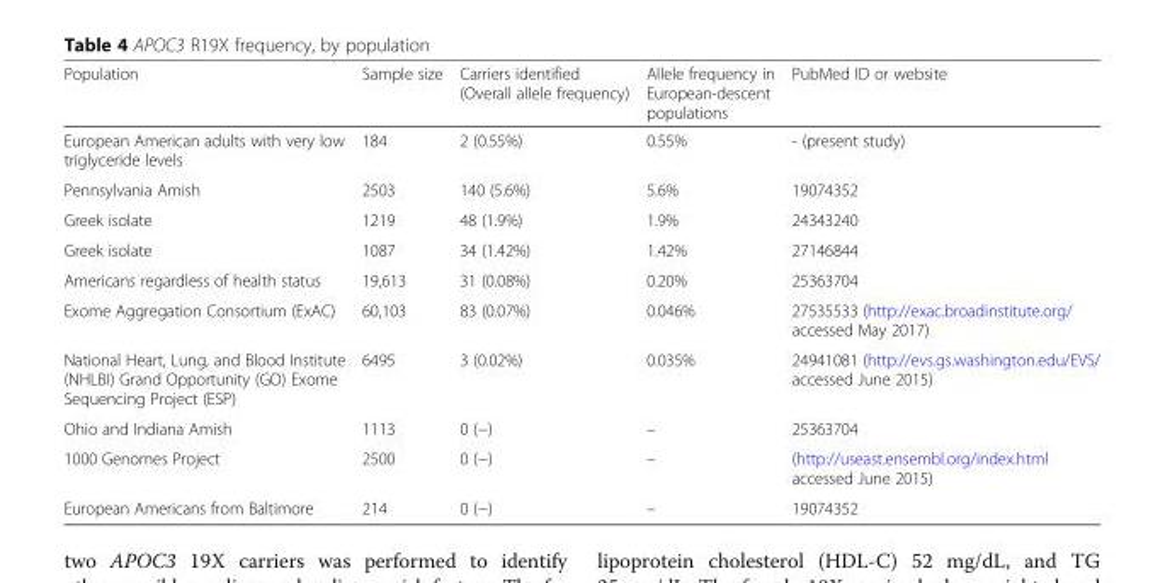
<table><thead><tr><td>Population</td><td>Sample size</td><td>Carriers identified (Overall allele frequency)</td><td>Allele frequency in European-descent populations</td><td>PubMed ID or website</td></tr></thead><tbody><tr><td>European American adults with very low triglyceride levels</td><td>184</td><td>2 (0.55%)</td><td>0.55%</td><td>- (present study)</td></tr><tr><td>Pennsylvania Amish</td><td>2503</td><td>140 (5.6%)</td><td>5.6%</td><td>19074352</td></tr><tr><td>Greek isolate</td><td>1219</td><td>48 (1.9%)</td><td>1.9%</td><td>24343240</td></tr><tr><td>Greek isolate</td><td>1087</td><td>34 (1.42%)</td><td>1.42%</td><td>27146844</td></tr><tr><td>Americans regardless of health status</td><td>19,613</td><td>31 (0.08%)</td><td>0.20%</td><td>25363704</td></tr><tr><td>Exome Aggregation Consortium (ExAC)</td><td>60,103</td><td>83 (0.07%)</td><td>0.046%</td><td>27535533 (http://exac.broadinstitute.org/ accessed May 2017)</td></tr><tr><td>National Heart, Lung, and Blood Institute (NHLBI) Grand Opportunity (GO) Exome Sequencing Project (ESP)</td><td>6495</td><td>3 (0.02%)</td><td>0.035%</td><td>24941081 (http://evs.gs.washington.edu/EVS/ accessed June 2015)</td></tr><tr><td>Ohio and Indiana Amish</td><td>1113</td><td>0 (−)</td><td>–</td><td>25363704</td></tr><tr><td>1000 Genomes Project</td><td>2500</td><td>0 (−)</td><td>–</td><td>(http://useast.ensembl.org/index.html accessed June 2015)</td></tr><tr><td>European Americans from Baltimore</td><td>214</td><td>0 (−)</td><td>–</td><td>19074352</td></tr></tbody></table>